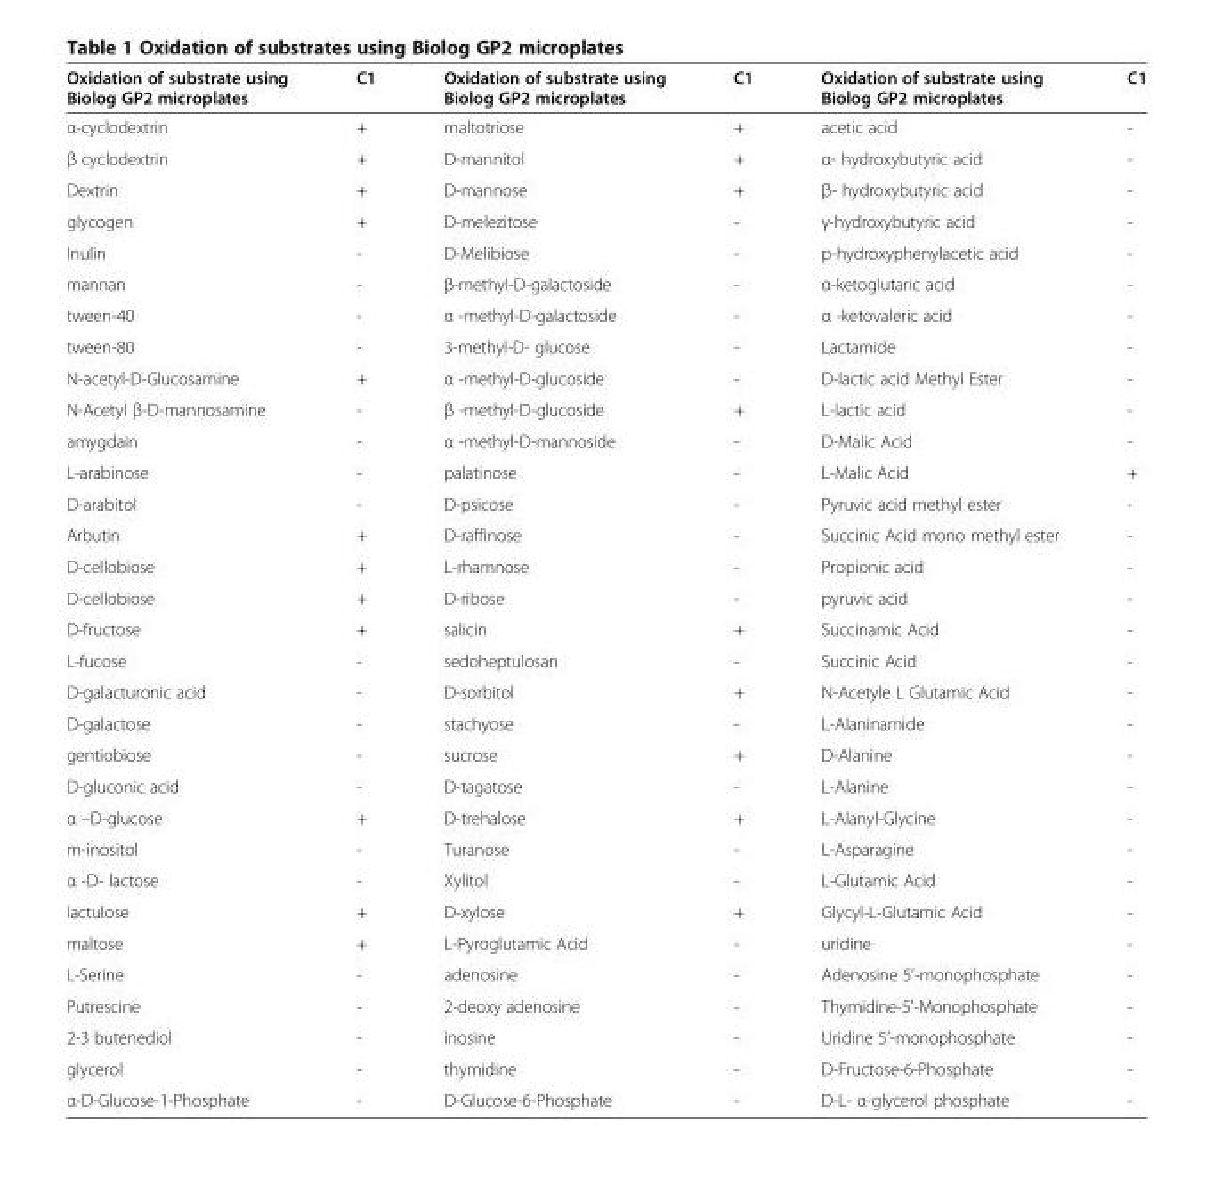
<table><thead><tr><td>Oxidation of substrate using Biolog GP2 microplates</td><td>C1</td><td>Oxidation of substrate using Biolog GP2 microplates</td><td>C1</td><td>Oxidation of substrate using Biolog GP2 microplates</td><td>C1</td></tr></thead><tbody><tr><td>α-cyclodextrin</td><td>+</td><td>maltotriose</td><td>+</td><td>acetic acid</td><td>-</td></tr><tr><td>β cyclodextrin</td><td>+</td><td>D-mannitol</td><td>+</td><td>α- hydroxybutyric acid</td><td>-</td></tr><tr><td>Dextrin</td><td>+</td><td>D-mannose</td><td>+</td><td>β- hydroxybutyric acid</td><td>-</td></tr><tr><td>glycogen</td><td>+</td><td>D-melezitose</td><td>-</td><td>γ-hydroxybutyric acid</td><td>-</td></tr><tr><td>Inulin</td><td>-</td><td>D-Melibiose</td><td>-</td><td>p-hydroxyphenylacetic acid</td><td>-</td></tr><tr><td>mannan</td><td>-</td><td>β-methyl-D-galactoside</td><td>-</td><td>α-ketoglutaric acid</td><td>-</td></tr><tr><td>tween-40</td><td>-</td><td>α -methyl-D-galactoside</td><td>-</td><td>α -ketovaleric acid</td><td>-</td></tr><tr><td>tween-80</td><td>-</td><td>3-methyl-D- glucose</td><td>-</td><td>Lactamide</td><td>-</td></tr><tr><td>N-acetyl-D-Glucosamine</td><td>+</td><td>α -methyl-D-glucoside</td><td>-</td><td>D-lactic acid Methyl Ester</td><td>-</td></tr><tr><td>N-Acetyl β-D-mannosamine</td><td>-</td><td>β -methyl-D-glucoside</td><td>+</td><td>L-lactic acid</td><td>-</td></tr><tr><td>amygdain</td><td>-</td><td>α -methyl-D-mannoside</td><td>-</td><td>D-Malic Acid</td><td>-</td></tr><tr><td>L-arabinose</td><td>-</td><td>palatinose</td><td>-</td><td>L-Malic Acid</td><td>+</td></tr><tr><td>D-arabitol</td><td>-</td><td>D-psicose</td><td>-</td><td>Pyruvic acid methyl ester</td><td>-</td></tr><tr><td>Arbutin</td><td>+</td><td>D-raffinose</td><td>-</td><td>Succinic Acid mono methyl ester</td><td>-</td></tr><tr><td>D-cellobiose</td><td>+</td><td>L-rhamnose</td><td>-</td><td>Propionic acid</td><td>-</td></tr><tr><td>D-cellobiose</td><td>+</td><td>D-ribose</td><td>-</td><td>pyruvic acid</td><td>-</td></tr><tr><td>D-fructose</td><td>+</td><td>salicin</td><td>+</td><td>Succinamic Acid</td><td>-</td></tr><tr><td>L-fucose</td><td>-</td><td>sedoheptulosan</td><td>-</td><td>Succinic Acid</td><td>-</td></tr><tr><td>D-galacturonic acid</td><td>-</td><td>D-sorbitol</td><td>+</td><td>N-Acetyle L Glutamic Acid</td><td>-</td></tr><tr><td>D-galactose</td><td>-</td><td>stachyose</td><td>-</td><td>L-Alaninamide</td><td>-</td></tr><tr><td>gentiobiose</td><td>-</td><td>sucrose</td><td>+</td><td>D-Alanine</td><td>-</td></tr><tr><td>D-gluconic acid</td><td>-</td><td>D-tagatose</td><td>-</td><td>L-Alanine</td><td>-</td></tr><tr><td>α –D-glucose</td><td>+</td><td>D-trehalose</td><td>+</td><td>L-Alanyl-Glycine</td><td>-</td></tr><tr><td>m-inositol</td><td>-</td><td>Turanose</td><td>-</td><td>L-Asparagine</td><td>-</td></tr><tr><td>α -D- lactose</td><td>-</td><td>Xylitol</td><td>-</td><td>L-Glutamic Acid</td><td>-</td></tr><tr><td>lactulose</td><td>+</td><td>D-xylose</td><td>+</td><td>Glycyl-L-Glutamic Acid</td><td>-</td></tr><tr><td>maltose</td><td>+</td><td>L-Pyroglutamic Acid</td><td>-</td><td>uridine</td><td>-</td></tr><tr><td>L-Serine</td><td>-</td><td>adenosine</td><td>-</td><td>Adenosine 5’-monophosphate</td><td>-</td></tr><tr><td>Putrescine</td><td>-</td><td>2-deoxy adenosine</td><td>-</td><td>Thymidine-5’-Monophosphate</td><td>-</td></tr><tr><td>2-3 butenediol</td><td>-</td><td>inosine</td><td>-</td><td>Uridine 5’-monophosphate</td><td>-</td></tr><tr><td>glycerol</td><td>-</td><td>thymidine</td><td>-</td><td>D-Fructose-6-Phosphate</td><td>-</td></tr><tr><td>α-D-Glucose-1-Phosphate</td><td>-</td><td>D-Glucose-6-Phosphate</td><td>-</td><td>D-L- α-glycerol phosphate</td><td>-</td></tr></tbody></table>